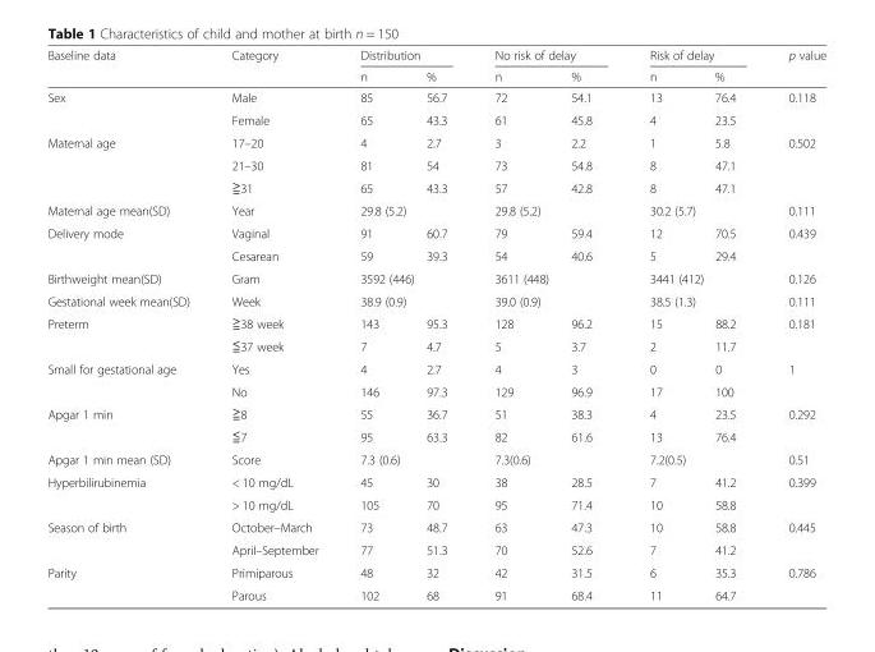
<table><thead><tr><td rowspan="2">Baseline data</td><td rowspan="2">Category</td><td colspan="2">Distribution</td><td colspan="2">No risk of delay</td><td colspan="2">Risk of delay</td><td rowspan="2">p value</td></tr><tr><td>n</td><td>%</td><td>n</td><td>%</td><td>n</td><td>%</td></tr></thead><tbody><tr><td rowspan="2">Sex</td><td>Male</td><td>85</td><td>56.7</td><td>72</td><td>54.1</td><td>13</td><td>76.4</td><td rowspan="2">0.118</td></tr><tr><td>Female</td><td>65</td><td>43.3</td><td>61</td><td>45.8</td><td>4</td><td>23.5</td></tr><tr><td rowspan="3">Maternal age</td><td>17–20</td><td>4</td><td>2.7</td><td>3</td><td>2.2</td><td>1</td><td>5.8</td><td rowspan="3">0.502</td></tr><tr><td>21–30</td><td>81</td><td>54</td><td>73</td><td>54.8</td><td>8</td><td>47.1</td></tr><tr><td>≧31</td><td>65</td><td>43.3</td><td>57</td><td>42.8</td><td>8</td><td>47.1</td></tr><tr><td>Maternal age mean(SD)</td><td>Year</td><td colspan="2">29.8 (5.2)</td><td colspan="2">29.8 (5.2)</td><td colspan="2">30.2 (5.7)</td><td>0.111</td></tr><tr><td rowspan="2">Delivery mode</td><td>Vaginal</td><td>91</td><td>60.7</td><td>79</td><td>59.4</td><td>12</td><td>70.5</td><td rowspan="2">0.439</td></tr><tr><td>Cesarean</td><td>59</td><td>39.3</td><td>54</td><td>40.6</td><td>5</td><td>29.4</td></tr><tr><td>Birthweight mean(SD)</td><td>Gram</td><td colspan="2">3592 (446)</td><td colspan="2">3611 (448)</td><td colspan="2">3441 (412)</td><td>0.126</td></tr><tr><td>Gestational week mean(SD)</td><td>Week</td><td colspan="2">38.9 (0.9)</td><td colspan="2">39.0 (0.9)</td><td colspan="2">38.5 (1.3)</td><td>0.111</td></tr><tr><td rowspan="2">Preterm</td><td>≧38 week</td><td>143</td><td>95.3</td><td>128</td><td>96.2</td><td>15</td><td>88.2</td><td rowspan="2">0.181</td></tr><tr><td>≦37 week</td><td>7</td><td>4.7</td><td>5</td><td>3.7</td><td>2</td><td>11.7</td></tr><tr><td rowspan="2">Small for gestational age</td><td>Yes</td><td>4</td><td>2.7</td><td>4</td><td>3</td><td>0</td><td>0</td><td rowspan="2">1</td></tr><tr><td>No</td><td>146</td><td>97.3</td><td>129</td><td>96.9</td><td>17</td><td>100</td></tr><tr><td rowspan="2">Apgar 1 min</td><td>≧8</td><td>55</td><td>36.7</td><td>51</td><td>38.3</td><td>4</td><td>23.5</td><td rowspan="2">0.292</td></tr><tr><td>≦7</td><td>95</td><td>63.3</td><td>82</td><td>61.6</td><td>13</td><td>76.4</td></tr><tr><td>Apgar 1 min mean (SD)</td><td>Score</td><td colspan="2">7.3 (0.6)</td><td colspan="2">7.3(0.6)</td><td colspan="2">7.2(0.5)</td><td>0.51</td></tr><tr><td rowspan="2">Hyperbilirubinemia</td><td>&lt; 10 mg/dL</td><td>45</td><td>30</td><td>38</td><td>28.5</td><td>7</td><td>41.2</td><td rowspan="2">0.399</td></tr><tr><td>&gt; 10 mg/dL</td><td>105</td><td>70</td><td>95</td><td>71.4</td><td>10</td><td>58.8</td></tr><tr><td rowspan="2">Season of birth</td><td>October–March</td><td>73</td><td>48.7</td><td>63</td><td>47.3</td><td>10</td><td>58.8</td><td rowspan="2">0.445</td></tr><tr><td>April–September</td><td>77</td><td>51.3</td><td>70</td><td>52.6</td><td>7</td><td>41.2</td></tr><tr><td rowspan="2">Parity</td><td>Primiparous</td><td>48</td><td>32</td><td>42</td><td>31.5</td><td>6</td><td>35.3</td><td rowspan="2">0.786</td></tr><tr><td>Parous</td><td>102</td><td>68</td><td>91</td><td>68.4</td><td>11</td><td>64.7</td></tr></tbody></table>